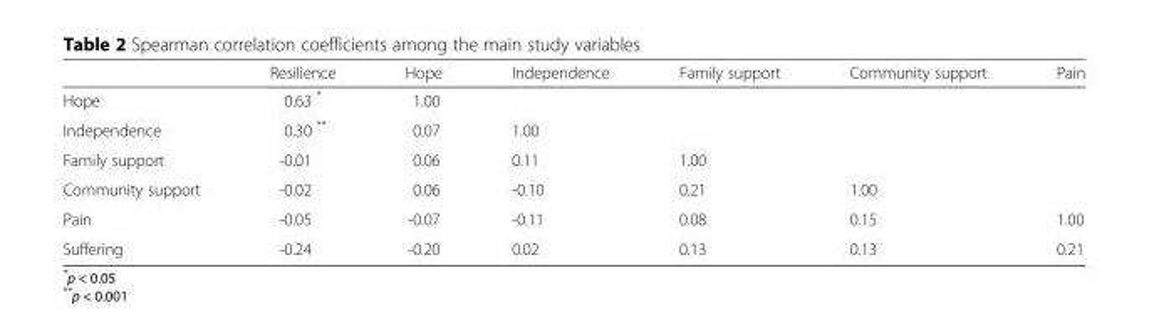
<table><thead><tr><td></td><td>Resilience</td><td>Hope</td><td>Independence</td><td>Family support</td><td>Community support</td><td>Pain</td></tr></thead><tbody><tr><td>Hope</td><td>0.63 *</td><td>1.00</td><td></td><td></td><td></td><td></td></tr><tr><td>Independence</td><td>0.30 **</td><td>0.07</td><td>1.00</td><td></td><td></td><td></td></tr><tr><td>Family support</td><td>-0.01</td><td>0.06</td><td>0.11</td><td>1.00</td><td></td><td></td></tr><tr><td>Community support</td><td>-0.02</td><td>0.06</td><td>-0.10</td><td>0.21</td><td>1.00</td><td></td></tr><tr><td>Pain</td><td>-0.05</td><td>-0.07</td><td>-0.11</td><td>0.08</td><td>0.15</td><td>1.00</td></tr><tr><td>Suffering</td><td>-0.24</td><td>-0.20</td><td>0.02</td><td>0.13</td><td>0.13</td><td>0.21</td></tr></tbody></table>